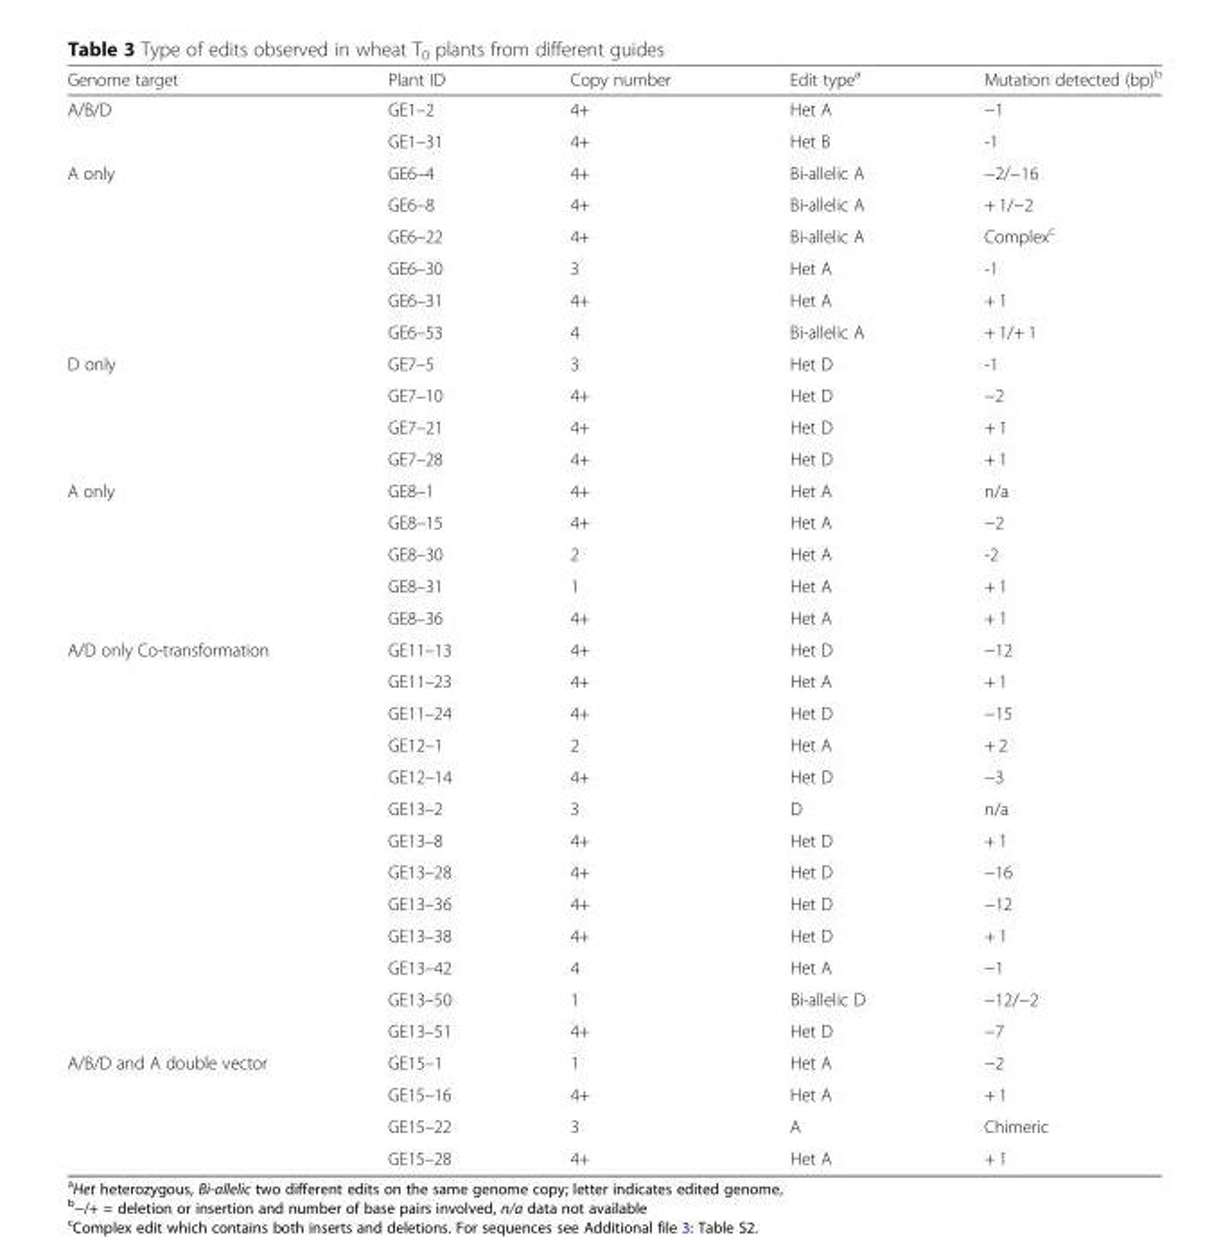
<table><thead><tr><td>Genome target</td><td>Plant ID</td><td>Copy number</td><td>Edit type<sup>a</sup></td><td>Mutation detected (bp)<sup>b</sup></td></tr></thead><tbody><tr><td rowspan="2">A/B/D</td><td>GE1–2</td><td>4+</td><td>Het A</td><td>−1</td></tr><tr><td>GE1–31</td><td>4+</td><td>Het B</td><td>-1</td></tr><tr><td rowspan="6">A only</td><td>GE6–4</td><td>4+</td><td>Bi-allelic A</td><td>−2/−16</td></tr><tr><td>GE6–8</td><td>4+</td><td>Bi-allelic A</td><td>+ 1/−2</td></tr><tr><td>GE6–22</td><td>4+</td><td>Bi-allelic A</td><td>Complex<sup>c</sup></td></tr><tr><td>GE6–30</td><td>3</td><td>Het A</td><td>-1</td></tr><tr><td>GE6–31</td><td>4+</td><td>Het A</td><td>+ 1</td></tr><tr><td>GE6–53</td><td>4</td><td>Bi-allelic A</td><td>+ 1/+ 1</td></tr><tr><td rowspan="4">D only</td><td>GE7–5</td><td>3</td><td>Het D</td><td>-1</td></tr><tr><td>GE7–10</td><td>4+</td><td>Het D</td><td>−2</td></tr><tr><td>GE7–21</td><td>4+</td><td>Het D</td><td>+ 1</td></tr><tr><td>GE7–28</td><td>4+</td><td>Het D</td><td>+ 1</td></tr><tr><td rowspan="5">A only</td><td>GE8–1</td><td>4+</td><td>Het A</td><td>n/a</td></tr><tr><td>GE8–15</td><td>4+</td><td>Het A</td><td>−2</td></tr><tr><td>GE8–30</td><td>2</td><td>Het A</td><td>-2</td></tr><tr><td>GE8–31</td><td>1</td><td>Het A</td><td>+ 1</td></tr><tr><td>GE8–36</td><td>4+</td><td>Het A</td><td>+ 1</td></tr><tr><td rowspan="13">A/D only Co-transformation</td><td>GE11–13</td><td>4+</td><td>Het D</td><td>−12</td></tr><tr><td>GE11–23</td><td>4+</td><td>Het A</td><td>+ 1</td></tr><tr><td>GE11–24</td><td>4+</td><td>Het D</td><td>−15</td></tr><tr><td>GE12–1</td><td>2</td><td>Het A</td><td>+ 2</td></tr><tr><td>GE12–14</td><td>4+</td><td>Het D</td><td>−3</td></tr><tr><td>GE13–2</td><td>3</td><td>D</td><td>n/a</td></tr><tr><td>GE13–8</td><td>4+</td><td>Het D</td><td>+ 1</td></tr><tr><td>GE13–28</td><td>4+</td><td>Het D</td><td>−16</td></tr><tr><td>GE13–36</td><td>4+</td><td>Het D</td><td>−12</td></tr><tr><td>GE13–38</td><td>4+</td><td>Het D</td><td>+ 1</td></tr><tr><td>GE13–42</td><td>4</td><td>Het A</td><td>−1</td></tr><tr><td>GE13–50</td><td>1</td><td>Bi-allelic D</td><td>−12/−2</td></tr><tr><td>GE13–51</td><td>4+</td><td>Het D</td><td>−7</td></tr><tr><td rowspan="4">A/B/D and A double vector</td><td>GE15–1</td><td>1</td><td>Het A</td><td>−2</td></tr><tr><td>GE15–16</td><td>4+</td><td>Het A</td><td>+ 1</td></tr><tr><td>GE15–22</td><td>3</td><td>A</td><td>Chimeric</td></tr><tr><td>GE15–28</td><td>4+</td><td>Het A</td><td>+ 1</td></tr></tbody></table>